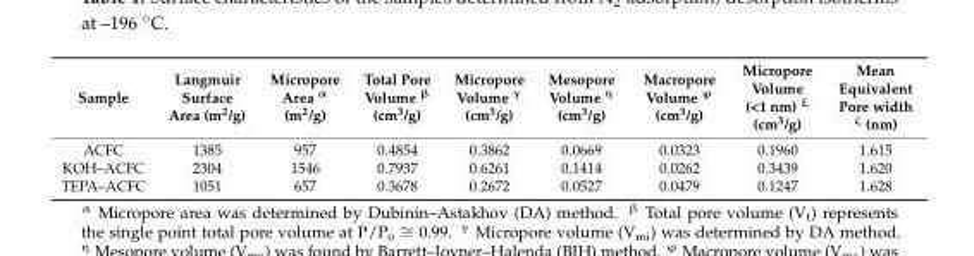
<table><thead><tr><td>Sample</td><td>Langmuir Surface Area (m<sup>2</sup>/g)</td><td>Micropore Area <sup>α</sup> (m<sup>2</sup>/g)</td><td>Total Pore Volume <sup>β</sup> (cm<sup>3</sup>/g)</td><td>Micropore Volume <sup>γ</sup> (cm<sup>3</sup>/g)</td><td>Mesopore Volume <sup>η</sup> (cm<sup>3</sup>/g)</td><td>Macropore Volume <sup>ϕ</sup> (cm<sup>3</sup>/g)</td><td>Micropore Volume (&lt;1 nm) <sup>ξ</sup> (cm<sup>3</sup>/g)</td><td>Mean Equivalent Pore width <sup>ζ</sup> (nm)</td></tr></thead><tbody><tr><td>ACFC</td><td>1385</td><td>957</td><td>0.4854</td><td>0.3862</td><td>0.0669</td><td>0.0323</td><td>0.1960</td><td>1.615</td></tr><tr><td>KOH–ACFC</td><td>2304</td><td>1546</td><td>0.7937</td><td>0.6261</td><td>0.1414</td><td>0.0262</td><td>0.3439</td><td>1.620</td></tr><tr><td>TEPA–ACFC</td><td>1051</td><td>657</td><td>0.3678</td><td>0.2672</td><td>0.0527</td><td>0.0479</td><td>0.1247</td><td>1.628</td></tr></tbody></table>